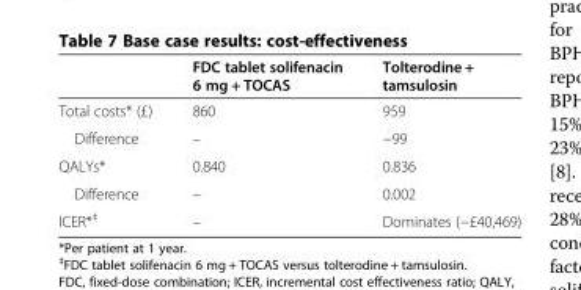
<table><thead><tr><td></td><td>FDC tablet solifenacin 6 mg + TOCAS</td><td>Tolterodine + tamsulosin</td></tr></thead><tbody><tr><td>Total costs* (£)</td><td>860</td><td>959</td></tr><tr><td>Difference</td><td>–</td><td>−99</td></tr><tr><td>QALYs*</td><td>0.840</td><td>0.836</td></tr><tr><td>Difference</td><td>–</td><td>0.002</td></tr><tr><td>ICER*<sup>‡</sup></td><td>–</td><td>Dominates (−£40,469)</td></tr></tbody></table>